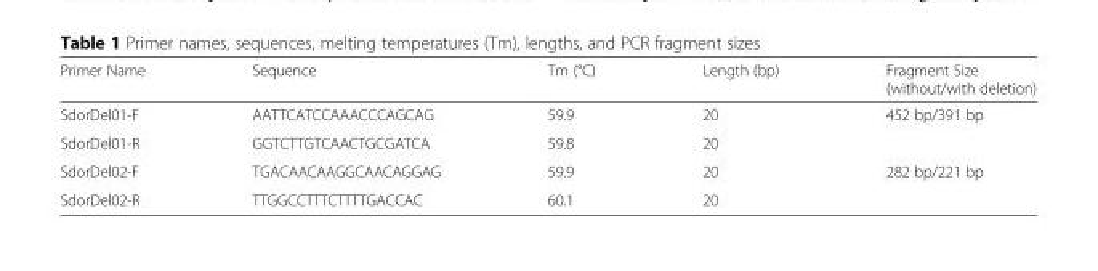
<table><thead><tr><td>Primer Name</td><td>Sequence</td><td>Tm (°C)</td><td>Length (bp)</td><td>Fragment Size (without/with deletion)</td></tr></thead><tbody><tr><td>SdorDel01-F</td><td>AATTCATCCAAACCCAGCAG</td><td>59.9</td><td>20</td><td rowspan="2">452 bp/391 bp</td></tr><tr><td>SdorDel01-R</td><td>GGTCTTGTCAACTGCGATCA</td><td>59.8</td><td>20</td></tr><tr><td>SdorDel02-F</td><td>TGACAACAAGGCAACAGGAG</td><td>59.9</td><td>20</td><td rowspan="2">282 bp/221 bp</td></tr><tr><td>SdorDel02-R</td><td>TTGGCCTTTCTTTTGACCAC</td><td>60.1</td><td>20</td></tr></tbody></table>